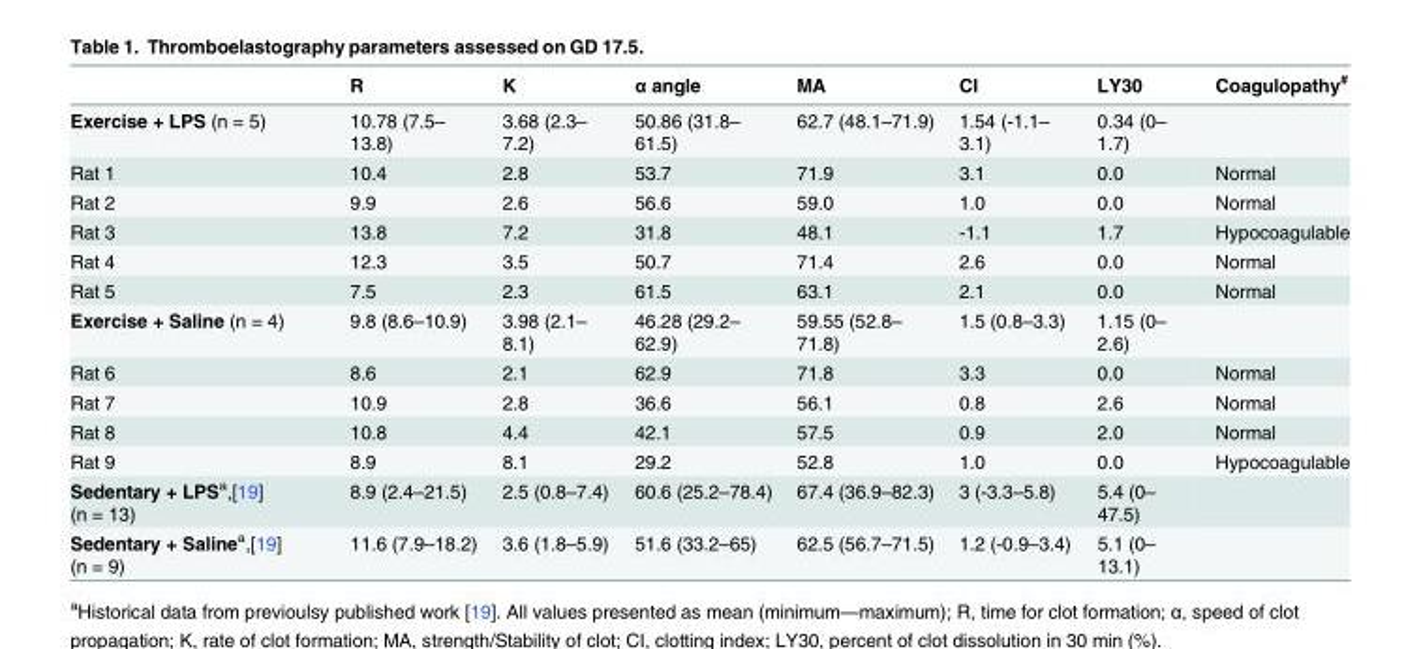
<table><thead><tr><td></td><td>R</td><td>K</td><td>α angle</td><td>MA</td><td>CI</td><td>LY30</td><td>Coagulopathy<sup>#</sup></td></tr></thead><tbody><tr><td>Exercise + LPS (n = 5)</td><td>10.78 (7.5– 13.8)</td><td>3.68 (2.3– 7.2)</td><td>50.86 (31.8– 61.5)</td><td>62.7 (48.1–71.9)</td><td>1.54 (-1.1– 3.1)</td><td>0.34 (0– 1.7)</td><td></td></tr><tr><td>Rat 1</td><td>10.4</td><td>2.8</td><td>53.7</td><td>71.9</td><td>3.1</td><td>0.0</td><td>Normal</td></tr><tr><td>Rat 2</td><td>9.9</td><td>2.6</td><td>56.6</td><td>59.0</td><td>1.0</td><td>0.0</td><td>Normal</td></tr><tr><td>Rat 3</td><td>13.8</td><td>7.2</td><td>31.8</td><td>48.1</td><td>-1.1</td><td>1.7</td><td>Hypocoagulable</td></tr><tr><td>Rat 4</td><td>12.3</td><td>3.5</td><td>50.7</td><td>71.4</td><td>2.6</td><td>0.0</td><td>Normal</td></tr><tr><td>Rat 5</td><td>7.5</td><td>2.3</td><td>61.5</td><td>63.1</td><td>2.1</td><td>0.0</td><td>Normal</td></tr><tr><td>Exercise + Saline (n = 4)</td><td>9.8 (8.6–10.9)</td><td>3.98 (2.1– 8.1)</td><td>46.28 (29.2– 62.9)</td><td>59.55 (52.8– 71.8)</td><td>1.5 (0.8–3.3)</td><td>1.15 (0– 2.6)</td><td></td></tr><tr><td>Rat 6</td><td>8.6</td><td>2.1</td><td>62.9</td><td>71.8</td><td>3.3</td><td>0.0</td><td>Normal</td></tr><tr><td>Rat 7</td><td>10.9</td><td>2.8</td><td>36.6</td><td>56.1</td><td>0.8</td><td>2.6</td><td>Normal</td></tr><tr><td>Rat 8</td><td>10.8</td><td>4.4</td><td>42.1</td><td>57.5</td><td>0.9</td><td>2.0</td><td>Normal</td></tr><tr><td>Rat 9</td><td>8.9</td><td>8.1</td><td>29.2</td><td>52.8</td><td>1.0</td><td>0.0</td><td>Hypocoagulable</td></tr><tr><td>Sedentary + LPS<sup>a</sup>,[19] (n = 13)</td><td>8.9 (2.4–21.5)</td><td>2.5 (0.8–7.4)</td><td>60.6 (25.2–78.4)</td><td>67.4 (36.9–82.3)</td><td>3 (-3.3–5.8)</td><td>5.4 (0– 47.5)</td><td></td></tr><tr><td>Sedentary + Saline<sup>a</sup>,[19] (n = 9)</td><td>11.6 (7.9–18.2)</td><td>3.6 (1.8–5.9)</td><td>51.6 (33.2–65)</td><td>62.5 (56.7–71.5)</td><td>1.2 (-0.9–3.4)</td><td>5.1 (0– 13.1)</td><td></td></tr></tbody></table>